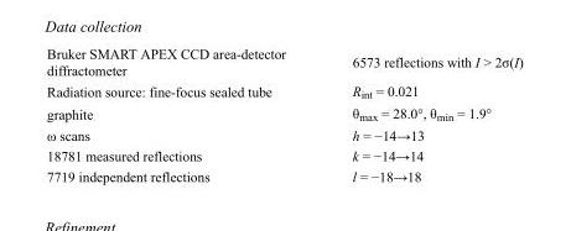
<table><tbody><tr><td>Bruker SMART APEX CCD area-detector diffractometer</td><td>6573 reflections with I &gt; 2σ(I)</td></tr><tr><td>Radiation source: fine-focus sealed tube</td><td>R<sub>int</sub> = 0.021</td></tr><tr><td>graphite</td><td>θ<sub>max</sub> = 28.0°, θ<sub>min</sub> = 1.9°</td></tr><tr><td>ω scans</td><td>h = −14→13</td></tr><tr><td>18781 measured reflections</td><td>k = −14→14</td></tr><tr><td>7719 independent reflections</td><td>l = −18→18</td></tr></tbody></table>